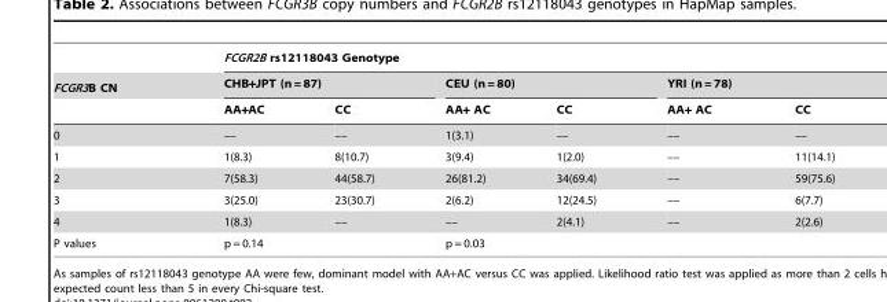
<table><thead><tr><td rowspan="3">FCGR3B CN</td><td colspan="6">FCGR2B rs12118043 Genotype</td></tr><tr><td colspan="2">CHB+JPT (n = 87)</td><td colspan="2">CEU (n = 80)</td><td colspan="2">YRI (n = 78)</td></tr><tr><td>AA+AC</td><td>CC</td><td>AA+ AC</td><td>CC</td><td>AA+ AC</td><td>CC</td></tr></thead><tbody><tr><td>0</td><td>––</td><td>––</td><td>1(3.1)</td><td>––</td><td>––</td><td>––</td></tr><tr><td>1</td><td>1(8.3)</td><td>8(10.7)</td><td>3(9.4)</td><td>1(2.0)</td><td>––</td><td>11(14.1)</td></tr><tr><td>2</td><td>7(58.3)</td><td>44(58.7)</td><td>26(81.2)</td><td>34(69.4)</td><td>––</td><td>59(75.6)</td></tr><tr><td>3</td><td>3(25.0)</td><td>23(30.7)</td><td>2(6.2)</td><td>12(24.5)</td><td>––</td><td>6(7.7)</td></tr><tr><td>4</td><td>1(8.3)</td><td>––</td><td>––</td><td>2(4.1)</td><td>––</td><td>2(2.6)</td></tr><tr><td>P values</td><td colspan="2">p = 0.14</td><td colspan="2">p = 0.03</td><td colspan="2"></td></tr></tbody></table>